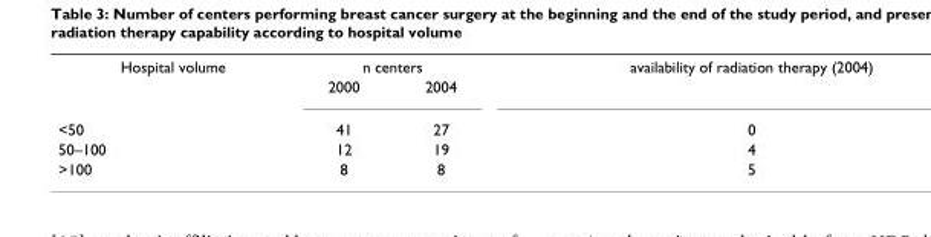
<table><tbody><tr><td rowspan="2">Hospital volume</td><td colspan="2">n centers</td><td>availability of radiation therapy (2004)</td></tr><tr><td>2000</td><td>2004</td><td></td></tr><tr><td>&lt;50</td><td>41</td><td>27</td><td>0</td></tr><tr><td>50–100</td><td>12</td><td>19</td><td>4</td></tr><tr><td>&gt;100</td><td>8</td><td>8</td><td>5</td></tr></tbody></table>